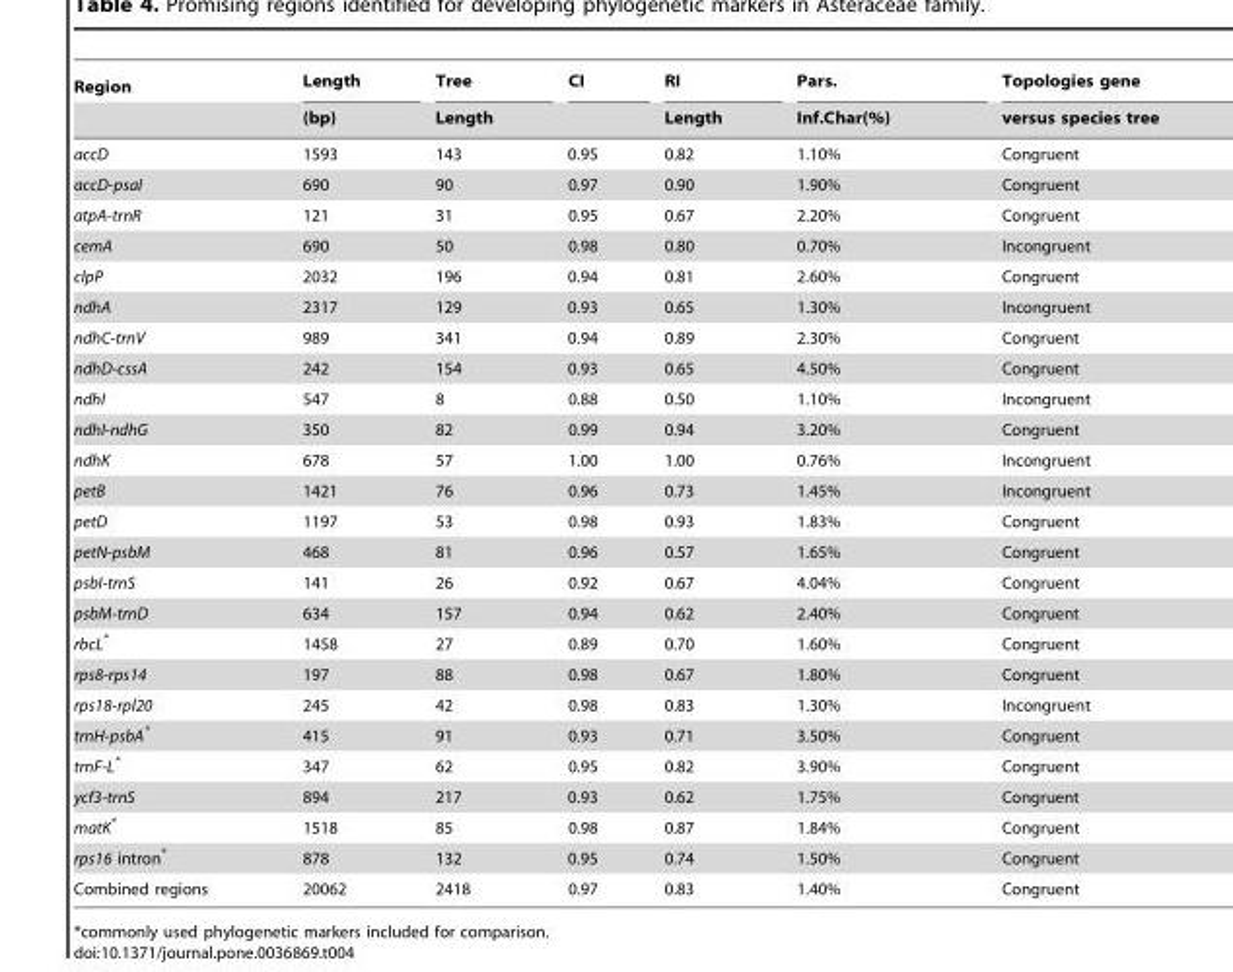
<table><thead><tr><td rowspan="2">Region</td><td rowspan="2">Length (bp)</td><td rowspan="2">Tree Length</td><td rowspan="2">CI</td><td rowspan="2">RI Length</td><td rowspan="2">Pars. Inf.Char(%)</td><td rowspan="2">Topologies gene versus species tree</td></tr><tr></tr></thead><tbody><tr><td>accD</td><td>1593</td><td>143</td><td>0.95</td><td>0.82</td><td>1.10%</td><td>Congruent</td></tr><tr><td>accD-psaI</td><td>690</td><td>90</td><td>0.97</td><td>0.90</td><td>1.90%</td><td>Congruent</td></tr><tr><td>atpA-trnR</td><td>121</td><td>31</td><td>0.95</td><td>0.67</td><td>2.20%</td><td>Congruent</td></tr><tr><td>cemA</td><td>690</td><td>50</td><td>0.98</td><td>0.80</td><td>0.70%</td><td>Incongruent</td></tr><tr><td>clpP</td><td>2032</td><td>196</td><td>0.94</td><td>0.81</td><td>2.60%</td><td>Congruent</td></tr><tr><td>ndhA</td><td>2317</td><td>129</td><td>0.93</td><td>0.65</td><td>1.30%</td><td>Incongruent</td></tr><tr><td>ndhC-trnV</td><td>989</td><td>341</td><td>0.94</td><td>0.89</td><td>2.30%</td><td>Congruent</td></tr><tr><td>ndhD-cssA</td><td>242</td><td>154</td><td>0.93</td><td>0.65</td><td>4.50%</td><td>Congruent</td></tr><tr><td>ndhI</td><td>547</td><td>8</td><td>0.88</td><td>0.50</td><td>1.10%</td><td>Incongruent</td></tr><tr><td>ndhI-ndhG</td><td>350</td><td>82</td><td>0.99</td><td>0.94</td><td>3.20%</td><td>Congruent</td></tr><tr><td>ndhK</td><td>678</td><td>57</td><td>1.00</td><td>1.00</td><td>0.76%</td><td>Incongruent</td></tr><tr><td>petB</td><td>1421</td><td>76</td><td>0.96</td><td>0.73</td><td>1.45%</td><td>Incongruent</td></tr><tr><td>petD</td><td>1197</td><td>53</td><td>0.98</td><td>0.93</td><td>1.83%</td><td>Congruent</td></tr><tr><td>petN-psbM</td><td>468</td><td>81</td><td>0.96</td><td>0.57</td><td>1.65%</td><td>Congruent</td></tr><tr><td>psbI-trnS</td><td>141</td><td>26</td><td>0.92</td><td>0.67</td><td>4.04%</td><td>Congruent</td></tr><tr><td>psbM-trnD</td><td>634</td><td>157</td><td>0.94</td><td>0.62</td><td>2.40%</td><td>Congruent</td></tr><tr><td>rbcL*</td><td>1458</td><td>27</td><td>0.89</td><td>0.70</td><td>1.60%</td><td>Congruent</td></tr><tr><td>rps8-rps14</td><td>197</td><td>88</td><td>0.98</td><td>0.67</td><td>1.80%</td><td>Congruent</td></tr><tr><td>rps18-rpl20</td><td>245</td><td>42</td><td>0.98</td><td>0.83</td><td>1.30%</td><td>Incongruent</td></tr><tr><td>trnH-psbA*</td><td>415</td><td>91</td><td>0.93</td><td>0.71</td><td>3.50%</td><td>Congruent</td></tr><tr><td>trnF-L*</td><td>347</td><td>62</td><td>0.95</td><td>0.82</td><td>3.90%</td><td>Congruent</td></tr><tr><td>ycf3-trnS</td><td>894</td><td>217</td><td>0.93</td><td>0.62</td><td>1.75%</td><td>Congruent</td></tr><tr><td>matK*</td><td>1518</td><td>85</td><td>0.98</td><td>0.87</td><td>1.84%</td><td>Congruent</td></tr><tr><td>rps16 intron*</td><td>878</td><td>132</td><td>0.95</td><td>0.74</td><td>1.50%</td><td>Congruent</td></tr><tr><td>Combined regions</td><td>20062</td><td>2418</td><td>0.97</td><td>0.83</td><td>1.40%</td><td>Congruent</td></tr></tbody></table>